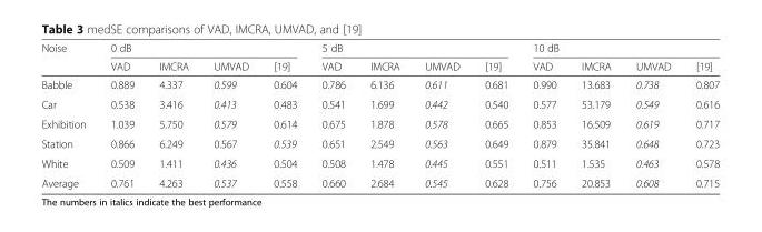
<table><thead><tr><td rowspan="2">Noise</td><td colspan="4">0 dB</td><td colspan="4">5 dB</td><td colspan="4">10 dB</td></tr><tr><td>VAD</td><td>IMCRA</td><td>UMVAD</td><td>[19]</td><td>VAD</td><td>IMCRA</td><td>UMVAD</td><td>[19]</td><td>VAD</td><td>IMCRA</td><td>UMVAD</td><td>[19]</td></tr></thead><tbody><tr><td>Babble</td><td>0.889</td><td>4.337</td><td>0.599</td><td>0.604</td><td>0.786</td><td>6.136</td><td>0.611</td><td>0.681</td><td>0.990</td><td>13.683</td><td>0.738</td><td>0.807</td></tr><tr><td>Car</td><td>0.538</td><td>3.416</td><td>0.413</td><td>0.483</td><td>0.541</td><td>1.699</td><td>0.442</td><td>0.540</td><td>0.577</td><td>53.179</td><td>0.549</td><td>0.616</td></tr><tr><td>Exhibition</td><td>1.039</td><td>5.750</td><td>0.579</td><td>0.614</td><td>0.675</td><td>1.878</td><td>0.578</td><td>0.665</td><td>0.853</td><td>16.509</td><td>0.619</td><td>0.717</td></tr><tr><td>Station</td><td>0.866</td><td>6.249</td><td>0.567</td><td>0.539</td><td>0.651</td><td>2.549</td><td>0.563</td><td>0.649</td><td>0.879</td><td>35.841</td><td>0.648</td><td>0.723</td></tr><tr><td>White</td><td>0.509</td><td>1.411</td><td>0.436</td><td>0.504</td><td>0.508</td><td>1.478</td><td>0.445</td><td>0.551</td><td>0.511</td><td>1.535</td><td>0.463</td><td>0.578</td></tr><tr><td>Average</td><td>0.761</td><td>4.263</td><td>0.537</td><td>0.558</td><td>0.660</td><td>2.684</td><td>0.545</td><td>0.628</td><td>0.756</td><td>20.853</td><td>0.608</td><td>0.715</td></tr></tbody></table>